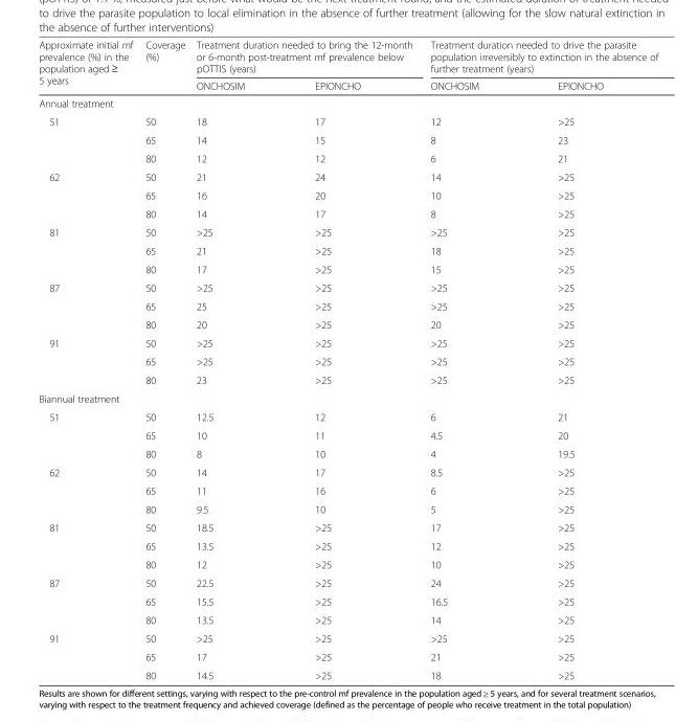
<table><thead><tr><td rowspan="2">Approximate initial mf prevalence (%) in the population aged ≥ 5 years</td><td rowspan="2">Coverage (%)</td><td colspan="2">Treatment duration needed to bring the 12-month or 6-month post-treatment mf prevalence below pOTTIS (years)</td><td colspan="2">Treatment duration needed to drive the parasite population irreversibly to extinction in the absence of further treatment (years)</td></tr><tr><td>ONCHOSIM</td><td>EPIONCHO</td><td>ONCHOSIM</td><td>EPIONCHO</td></tr></thead><tbody><tr><td colspan="6">Annual treatment</td></tr><tr><td rowspan="3">51</td><td>50</td><td>18</td><td>17</td><td>12</td><td>&gt;25</td></tr><tr><td>65</td><td>14</td><td>15</td><td>8</td><td>23</td></tr><tr><td>80</td><td>12</td><td>12</td><td>6</td><td>21</td></tr><tr><td rowspan="3">62</td><td>50</td><td>21</td><td>24</td><td>14</td><td>&gt;25</td></tr><tr><td>65</td><td>16</td><td>20</td><td>10</td><td>&gt;25</td></tr><tr><td>80</td><td>14</td><td>17</td><td>8</td><td>&gt;25</td></tr><tr><td rowspan="3">81</td><td>50</td><td>&gt;25</td><td>&gt;25</td><td>&gt;25</td><td>&gt;25</td></tr><tr><td>65</td><td>21</td><td>&gt;25</td><td>18</td><td>&gt;25</td></tr><tr><td>80</td><td>17</td><td>&gt;25</td><td>15</td><td>&gt;25</td></tr><tr><td rowspan="3">87</td><td>50</td><td>&gt;25</td><td>&gt;25</td><td>&gt;25</td><td>&gt;25</td></tr><tr><td>65</td><td>25</td><td>&gt;25</td><td>&gt;25</td><td>&gt;25</td></tr><tr><td>80</td><td>20</td><td>&gt;25</td><td>20</td><td>&gt;25</td></tr><tr><td rowspan="3">91</td><td>50</td><td>&gt;25</td><td>&gt;25</td><td>&gt;25</td><td>&gt;25</td></tr><tr><td>65</td><td>&gt;25</td><td>&gt;25</td><td>&gt;25</td><td>&gt;25</td></tr><tr><td>80</td><td>23</td><td>&gt;25</td><td>&gt;25</td><td>&gt;25</td></tr><tr><td colspan="6">Biannual treatment</td></tr><tr><td rowspan="3">51</td><td>50</td><td>12.5</td><td>12</td><td>6</td><td>21</td></tr><tr><td>65</td><td>10</td><td>11</td><td>4.5</td><td>20</td></tr><tr><td>80</td><td>8</td><td>10</td><td>4</td><td>19.5</td></tr><tr><td rowspan="3">62</td><td>50</td><td>14</td><td>17</td><td>8.5</td><td>&gt;25</td></tr><tr><td>65</td><td>11</td><td>16</td><td>6</td><td>&gt;25</td></tr><tr><td>80</td><td>9.5</td><td>10</td><td>5</td><td>&gt;25</td></tr><tr><td rowspan="3">81</td><td>50</td><td>18.5</td><td>&gt;25</td><td>17</td><td>&gt;25</td></tr><tr><td>65</td><td>13.5</td><td>&gt;25</td><td>12</td><td>&gt;25</td></tr><tr><td>80</td><td>12</td><td>&gt;25</td><td>10</td><td>&gt;25</td></tr><tr><td rowspan="3">87</td><td>50</td><td>22.5</td><td>&gt;25</td><td>24</td><td>&gt;25</td></tr><tr><td>65</td><td>15.5</td><td>&gt;25</td><td>16.5</td><td>&gt;25</td></tr><tr><td>80</td><td>13.5</td><td>&gt;25</td><td>14</td><td>&gt;25</td></tr><tr><td rowspan="3">91</td><td>50</td><td>&gt;25</td><td>&gt;25</td><td>&gt;25</td><td>&gt;25</td></tr><tr><td>65</td><td>17</td><td>&gt;25</td><td>21</td><td>&gt;25</td></tr><tr><td>80</td><td>14.5</td><td>&gt;25</td><td>18</td><td>&gt;25</td></tr></tbody></table>